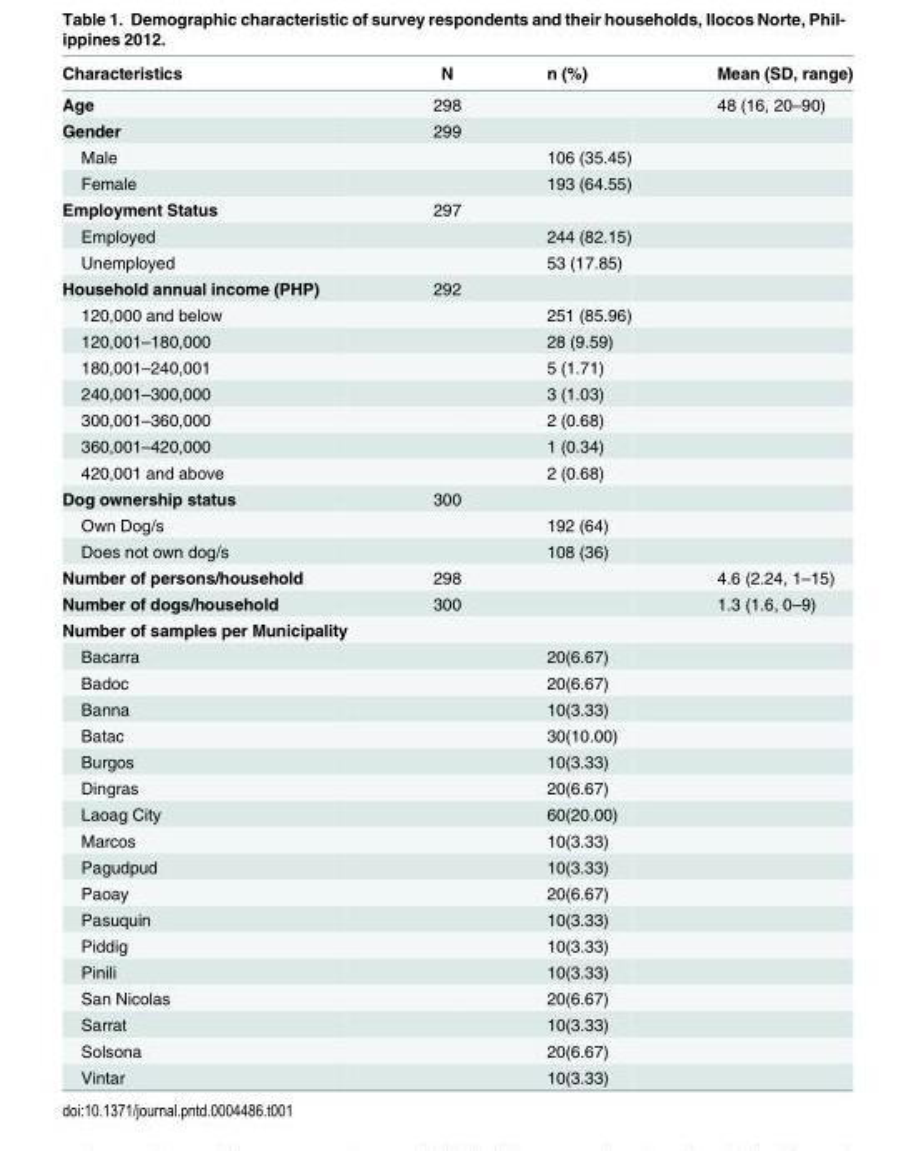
<table><thead><tr><td>Characteristics</td><td>N</td><td>n (%)</td><td>Mean (SD, range)</td></tr></thead><tbody><tr><td>Age</td><td>298</td><td></td><td>48 (16, 20–90)</td></tr><tr><td>Gender</td><td>299</td><td></td><td></td></tr><tr><td>Male</td><td></td><td>106 (35.45)</td><td></td></tr><tr><td>Female</td><td></td><td>193 (64.55)</td><td></td></tr><tr><td>Employment Status</td><td>297</td><td></td><td></td></tr><tr><td>Employed</td><td></td><td>244 (82.15)</td><td></td></tr><tr><td>Unemployed</td><td></td><td>53 (17.85)</td><td></td></tr><tr><td>Household annual income (PHP)</td><td>292</td><td></td><td></td></tr><tr><td>120,000 and below</td><td></td><td>251 (85.96)</td><td></td></tr><tr><td>120,001–180,000</td><td></td><td>28 (9.59)</td><td></td></tr><tr><td>180,001–240,001</td><td></td><td>5 (1.71)</td><td></td></tr><tr><td>240,001–300,000</td><td></td><td>3 (1.03)</td><td></td></tr><tr><td>300,001–360,000</td><td></td><td>2 (0.68)</td><td></td></tr><tr><td>360,001–420,000</td><td></td><td>1 (0.34)</td><td></td></tr><tr><td>420,001 and above</td><td></td><td>2 (0.68)</td><td></td></tr><tr><td>Dog ownership status</td><td>300</td><td></td><td></td></tr><tr><td>Own Dog/s</td><td></td><td>192 (64)</td><td></td></tr><tr><td>Does not own dog/s</td><td></td><td>108 (36)</td><td></td></tr><tr><td>Number of persons/household</td><td>298</td><td></td><td>4.6 (2.24, 1–15)</td></tr><tr><td>Number of dogs/household</td><td>300</td><td></td><td>1.3 (1.6, 0–9)</td></tr><tr><td colspan="4">Number of samples per Municipality</td></tr><tr><td>Bacarra</td><td></td><td>20(6.67)</td><td></td></tr><tr><td>Badoc</td><td></td><td>20(6.67)</td><td></td></tr><tr><td>Banna</td><td></td><td>10(3.33)</td><td></td></tr><tr><td>Batac</td><td></td><td>30(10.00)</td><td></td></tr><tr><td>Burgos</td><td></td><td>10(3.33)</td><td></td></tr><tr><td>Dingras</td><td></td><td>20(6.67)</td><td></td></tr><tr><td>Laoag City</td><td></td><td>60(20.00)</td><td></td></tr><tr><td>Marcos</td><td></td><td>10(3.33)</td><td></td></tr><tr><td>Pagudpud</td><td></td><td>10(3.33)</td><td></td></tr><tr><td>Paoay</td><td></td><td>20(6.67)</td><td></td></tr><tr><td>Pasuquin</td><td></td><td>10(3.33)</td><td></td></tr><tr><td>Piddig</td><td></td><td>10(3.33)</td><td></td></tr><tr><td>Pinili</td><td></td><td>10(3.33)</td><td></td></tr><tr><td>San Nicolas</td><td></td><td>20(6.67)</td><td></td></tr><tr><td>Sarrat</td><td></td><td>10(3.33)</td><td></td></tr><tr><td>Solsona</td><td></td><td>20(6.67)</td><td></td></tr><tr><td>Vintar</td><td></td><td>10(3.33)</td><td></td></tr></tbody></table>